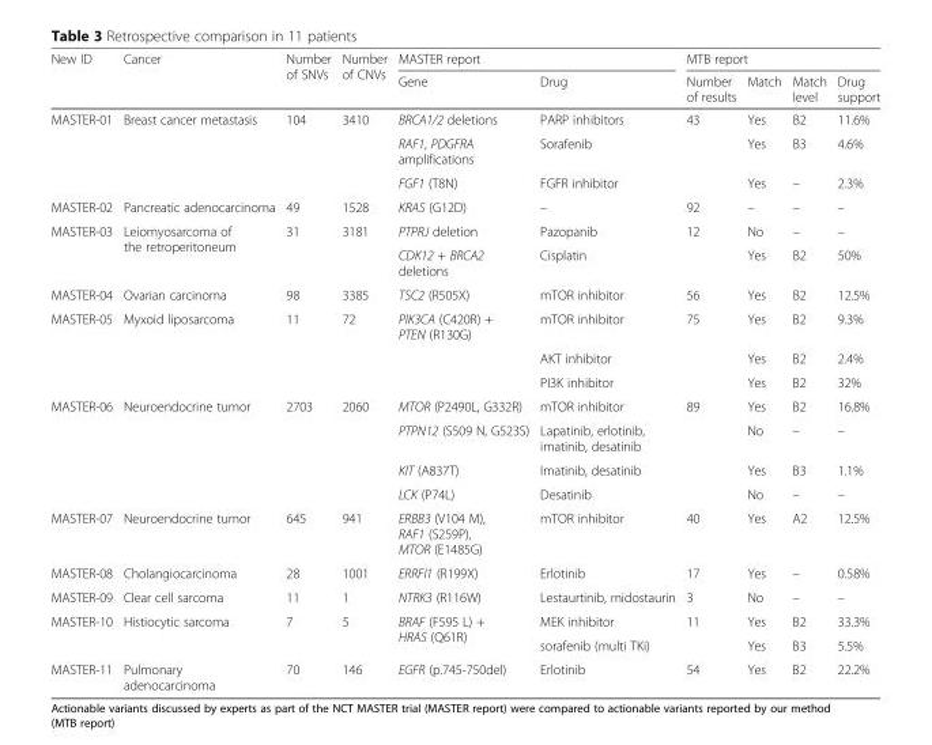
<table><thead><tr><td rowspan="2">New ID</td><td rowspan="2">Cancer</td><td rowspan="2">Number of SNVs</td><td rowspan="2">Number of CNVs</td><td colspan="2">MASTER report</td><td colspan="4">MTB report</td></tr><tr><td>Gene</td><td>Drug</td><td>Number of results</td><td>Match</td><td>Match level</td><td>Drug support</td></tr></thead><tbody><tr><td rowspan="3">MASTER-01</td><td rowspan="3">Breast cancer metastasis</td><td rowspan="3">104</td><td rowspan="3">3410</td><td>BRCA1/2 deletions</td><td>PARP inhibitors</td><td>43</td><td>Yes</td><td>B2</td><td>11.6%</td></tr><tr><td>RAF1, PDGFRA amplifications</td><td>Sorafenib</td><td></td><td>Yes</td><td>B3</td><td>4.6%</td></tr><tr><td>FGF1 (T8N)</td><td>FGFR inhibitor</td><td></td><td>Yes</td><td>–</td><td>2.3%</td></tr><tr><td>MASTER-02</td><td>Pancreatic adenocarcinoma</td><td>49</td><td>1528</td><td>KRAS (G12D)</td><td>–</td><td>92</td><td>–</td><td>–</td><td>–</td></tr><tr><td rowspan="2">MASTER-03</td><td rowspan="2">Leiomyosarcoma of the retroperitoneum</td><td rowspan="2">31</td><td rowspan="2">3181</td><td>PTPRJ deletion</td><td>Pazopanib</td><td>12</td><td>No</td><td>–</td><td>–</td></tr><tr><td>CDK12 + BRCA2 deletions</td><td>Cisplatin</td><td></td><td>Yes</td><td>B2</td><td>50%</td></tr><tr><td>MASTER-04</td><td>Ovarian carcinoma</td><td>98</td><td>3385</td><td>TSC2 (R505X)</td><td>mTOR inhibitor</td><td>56</td><td>Yes</td><td>B2</td><td>12.5%</td></tr><tr><td rowspan="3">MASTER-05</td><td rowspan="3">Myxoid liposarcoma</td><td rowspan="3">11</td><td rowspan="3">72</td><td>PIK3CA (C420R) + PTEN (R130G)</td><td>mTOR inhibitor</td><td>75</td><td>Yes</td><td>B2</td><td>9.3%</td></tr><tr><td></td><td>AKT inhibitor</td><td></td><td>Yes</td><td>B2</td><td>2.4%</td></tr><tr><td></td><td>PI3K inhibitor</td><td></td><td>Yes</td><td>B2</td><td>32%</td></tr><tr><td rowspan="4">MASTER-06</td><td rowspan="4">Neuroendocrine tumor</td><td rowspan="4">2703</td><td rowspan="4">2060</td><td>MTOR (P2490L, G332R)</td><td>mTOR inhibitor</td><td>89</td><td>Yes</td><td>B2</td><td>16.8%</td></tr><tr><td>PTPN12 (S509 N, G523S)</td><td>Lapatinib, erlotinib, imatinib, desatinib</td><td></td><td>No</td><td>–</td><td>–</td></tr><tr><td>KIT (A837T)</td><td>Imatinib, desatinib</td><td></td><td>Yes</td><td>B3</td><td>1.1%</td></tr><tr><td>LCK (P74L)</td><td>Desatinib</td><td></td><td>No</td><td>–</td><td>–</td></tr><tr><td>MASTER-07</td><td>Neuroendocrine tumor</td><td>645</td><td>941</td><td>ERBB3 (V104 M), RAF1 (S259P), MTOR (E1485G)</td><td>mTOR inhibitor</td><td>40</td><td>Yes</td><td>A2</td><td>12.5%</td></tr><tr><td>MASTER-08</td><td>Cholangiocarcinoma</td><td>28</td><td>1001</td><td>ERRFI1 (R199X)</td><td>Erlotinib</td><td>17</td><td>Yes</td><td>–</td><td>0.58%</td></tr><tr><td>MASTER-09</td><td>Clear cell sarcoma</td><td>11</td><td>1</td><td>NTRK3 (R116W)</td><td>Lestaurtinib, midostaurin</td><td>3</td><td>No</td><td>–</td><td>–</td></tr><tr><td rowspan="2">MASTER-10</td><td rowspan="2">Histiocytic sarcoma</td><td rowspan="2">7</td><td rowspan="2">5</td><td rowspan="2">BRAF (F595 L) + HRAS (Q61R)</td><td>MEK inhibitor</td><td>11</td><td>Yes</td><td>B2</td><td>33.3%</td></tr><tr><td>sorafenib (multi TKi)</td><td></td><td>Yes</td><td>B3</td><td>5.5%</td></tr><tr><td>MASTER-11</td><td>Pulmonary adenocarcinoma</td><td>70</td><td>146</td><td>EGFR (p.745-750del)</td><td>Erlotinib</td><td>54</td><td>Yes</td><td>B2</td><td>22.2%</td></tr></tbody></table>